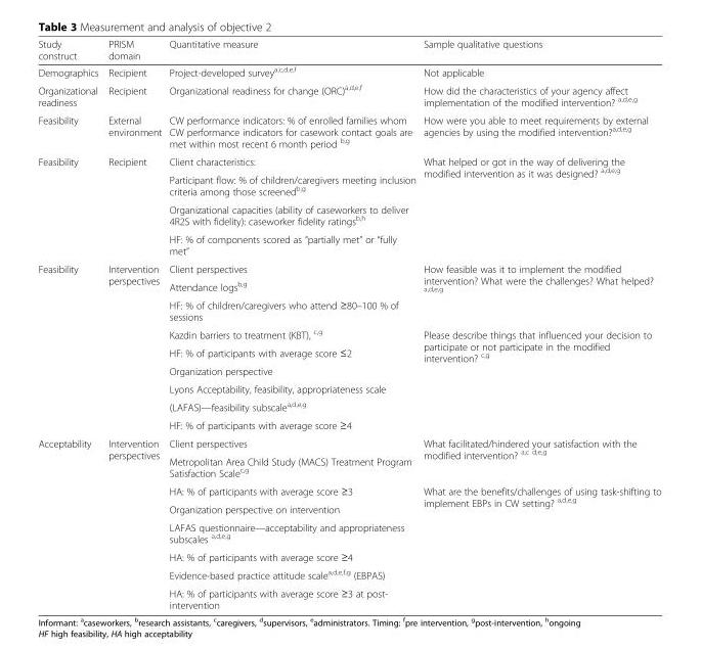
<table><thead><tr><td>Study construct</td><td>PRISM domain</td><td>Quantitative measure</td><td>Sample qualitative questions</td></tr></thead><tbody><tr><td>Demographics</td><td>Recipient</td><td>Project-developed survey<sup>a,c,d,e,f</sup></td><td>Not applicable</td></tr><tr><td>Organizational readiness</td><td>Recipient</td><td>Organizational readiness for change (ORC)<sup>a,d,e,f</sup></td><td>How did the characteristics of your agency affect implementation of the modified intervention? <sup>a,d,e,g</sup></td></tr><tr><td>Feasibility</td><td>External environment</td><td>CW performance indicators: % of enrolled families whom CW performance indicators for casework contact goals are met within most recent 6 month period <sup>b,g</sup></td><td>How were you able to meet requirements by external agencies by using the modified intervention?<sup>a,d,e,g</sup></td></tr><tr><td rowspan="4">Feasibility</td><td rowspan="4">Recipient</td><td>Client characteristics:</td><td rowspan="4">What helped or got in the way of delivering the modified intervention as it was designed? <sup>a,d,e,g</sup></td></tr><tr><td>Participant flow: % of children/caregivers meeting inclusion criteria among those screened<sup>b,g</sup></td></tr><tr><td>Organizational capacities (ability of caseworkers to deliver 4R2S with fidelity): caseworker fidelity ratings<sup>b,h</sup></td></tr><tr><td>HF: % of components scored as “partially met” or “fully met”</td></tr><tr><td rowspan="9">Feasibility</td><td rowspan="9">Intervention perspectives</td><td>Client perspectives</td><td rowspan="3">How feasible was it to implement the modified intervention? What were the challenges? What helped? <sup>a,d,e,g</sup></td></tr><tr><td>Attendance logs<sup>b,g</sup></td></tr><tr><td>HF: % of children/caregivers who attend ≥80–100 % of sessions</td></tr><tr><td>Kazdin barriers to treatment (KBT), <sup>c,g</sup></td><td rowspan="6">Please describe things that influenced your decision to participate or not participate in the modified intervention? <sup>c,g</sup></td></tr><tr><td>HF: % of participants with average score ≤2</td></tr><tr><td>Organization perspective</td></tr><tr><td>Lyons Acceptability, feasibility, appropriateness scale</td></tr><tr><td>(LAFAS)—feasibility subscale<sup>a,d,e,g</sup></td></tr><tr><td>HF: % of participants with average score ≥4</td></tr><tr><td rowspan="8">Acceptability</td><td rowspan="8">Intervention perspectives</td><td>Client perspectives</td><td rowspan="2">What facilitated/hindered your satisfaction with the modified intervention? <sup>a,c d,e,g</sup></td></tr><tr><td>Metropolitan Area Child Study (MACS) Treatment Program Satisfaction Scale<sup>c,g</sup></td></tr><tr><td>HA: % of participants with average score ≥3</td><td rowspan="6">What are the benefits/challenges of using task-shifting to implement EBPs in CW setting? <sup>a,d,e,g</sup></td></tr><tr><td>Organization perspective on intervention</td></tr><tr><td>LAFAS questionnaire—acceptability and appropriateness subscales <sup>a,d,e,g</sup></td></tr><tr><td>HA: % of participants with average score ≥4</td></tr><tr><td>Evidence-based practice attitude scale<sup>a,d,e,f,g</sup> (EBPAS)</td></tr><tr><td>HA: % of participants with average score ≥3 at post- intervention</td></tr></tbody></table>